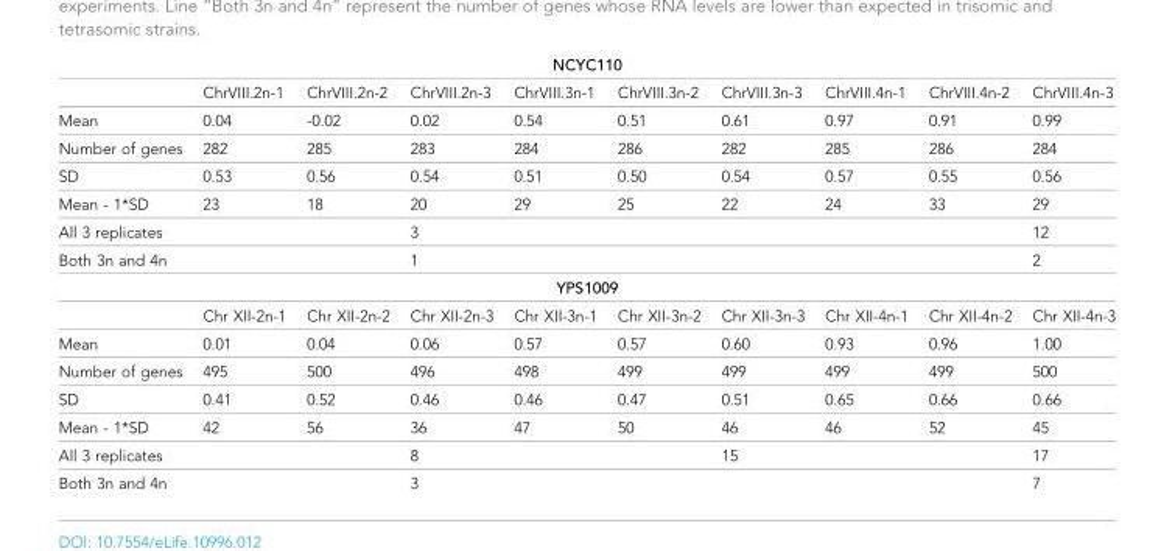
<table><tbody><tr><td colspan="10">NCYC110</td></tr><tr><td></td><td>ChrVIII.2n-1</td><td>ChrVIII.2n-2</td><td>ChrVIII.2n-3</td><td>ChrVIII.3n-1</td><td>ChrVIII.3n-2</td><td>ChrVIII.3n-3</td><td>ChrVIII.4n-1</td><td>ChrVIII.4n-2</td><td>ChrVIII.4n-3</td></tr><tr><td>Mean</td><td>0.04</td><td>-0.02</td><td>0.02</td><td>0.54</td><td>0.51</td><td>0.61</td><td>0.97</td><td>0.91</td><td>0.99</td></tr><tr><td>Number of genes</td><td>282</td><td>285</td><td>283</td><td>284</td><td>286</td><td>282</td><td>285</td><td>286</td><td>284</td></tr><tr><td>SD</td><td>0.53</td><td>0.56</td><td>0.54</td><td>0.51</td><td>0.50</td><td>0.54</td><td>0.57</td><td>0.55</td><td>0.56</td></tr><tr><td>Mean - 1*SD</td><td>23</td><td>18</td><td>20</td><td>29</td><td>25</td><td>22</td><td>24</td><td>33</td><td>29</td></tr><tr><td>All 3 replicates</td><td></td><td></td><td>3</td><td></td><td></td><td></td><td></td><td></td><td>12</td></tr><tr><td>Both 3n and 4n</td><td></td><td></td><td>1</td><td></td><td></td><td></td><td></td><td></td><td>2</td></tr><tr><td colspan="10">YPS1009</td></tr><tr><td></td><td>Chr XII-2n-1</td><td>Chr XII-2n-2</td><td>Chr XII-2n-3</td><td>Chr XII-3n-1</td><td>Chr XII-3n-2</td><td>Chr XII-3n-3</td><td>Chr XII-4n-1</td><td>Chr XII-4n-2</td><td>Chr XII-4n-3</td></tr><tr><td>Mean</td><td>0.01</td><td>0.04</td><td>0.06</td><td>0.57</td><td>0.57</td><td>0.60</td><td>0.93</td><td>0.96</td><td>1.00</td></tr><tr><td>Number of genes</td><td>495</td><td>500</td><td>496</td><td>498</td><td>499</td><td>499</td><td>499</td><td>499</td><td>500</td></tr><tr><td>SD</td><td>0.41</td><td>0.52</td><td>0.46</td><td>0.46</td><td>0.47</td><td>0.51</td><td>0.65</td><td>0.66</td><td>0.66</td></tr><tr><td>Mean - 1*SD</td><td>42</td><td>56</td><td>36</td><td>47</td><td>50</td><td>46</td><td>46</td><td>52</td><td>45</td></tr><tr><td>All 3 replicates</td><td></td><td></td><td>8</td><td></td><td></td><td>15</td><td></td><td></td><td>17</td></tr><tr><td>Both 3n and 4n</td><td></td><td></td><td>3</td><td></td><td></td><td></td><td></td><td></td><td>7</td></tr></tbody></table>